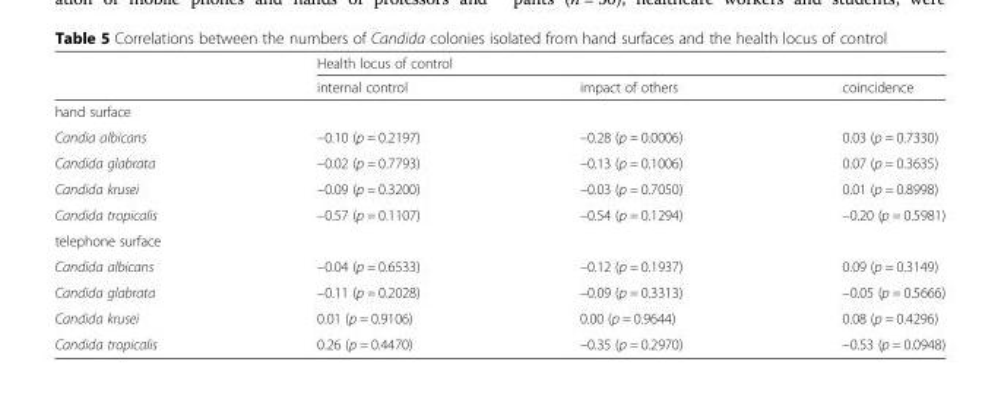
<table><thead><tr><td rowspan="2"></td><td colspan="3">Health locus of control</td></tr><tr><td>internal control</td><td>impact of others</td><td>coincidence</td></tr></thead><tbody><tr><td colspan="4">hand surface</td></tr><tr><td>Candia albicans</td><td>–0.10 (p = 0.2197)</td><td>–0.28 (p = 0.0006)</td><td>0.03 (p = 0.7330)</td></tr><tr><td>Candida glabrata</td><td>–0.02 (p = 0.7793)</td><td>–0.13 (p = 0.1006)</td><td>0.07 (p = 0.3635)</td></tr><tr><td>Candida krusei</td><td>–0.09 (p = 0.3200)</td><td>–0.03 (p = 0.7050)</td><td>0.01 (p = 0.8998)</td></tr><tr><td>Candida tropicalis</td><td>–0.57 (p = 0.1107)</td><td>–0.54 (p = 0.1294)</td><td>–0.20 (p = 0.5981)</td></tr><tr><td colspan="4">telephone surface</td></tr><tr><td>Candida albicans</td><td>–0.04 (p = 0.6533)</td><td>–0.12 (p = 0.1937)</td><td>0.09 (p = 0.3149)</td></tr><tr><td>Candida glabrata</td><td>–0.11 (p = 0.2028)</td><td>–0.09 (p = 0.3313)</td><td>–0.05 (p = 0.5666)</td></tr><tr><td>Candida krusei</td><td>0.01 (p = 0.9106)</td><td>0.00 (p = 0.9644)</td><td>0.08 (p = 0.4296)</td></tr><tr><td>Candida tropicalis</td><td>0.26 (p = 0.4470)</td><td>–0.35 (p = 0.2970)</td><td>–0.53 (p = 0.0948)</td></tr></tbody></table>